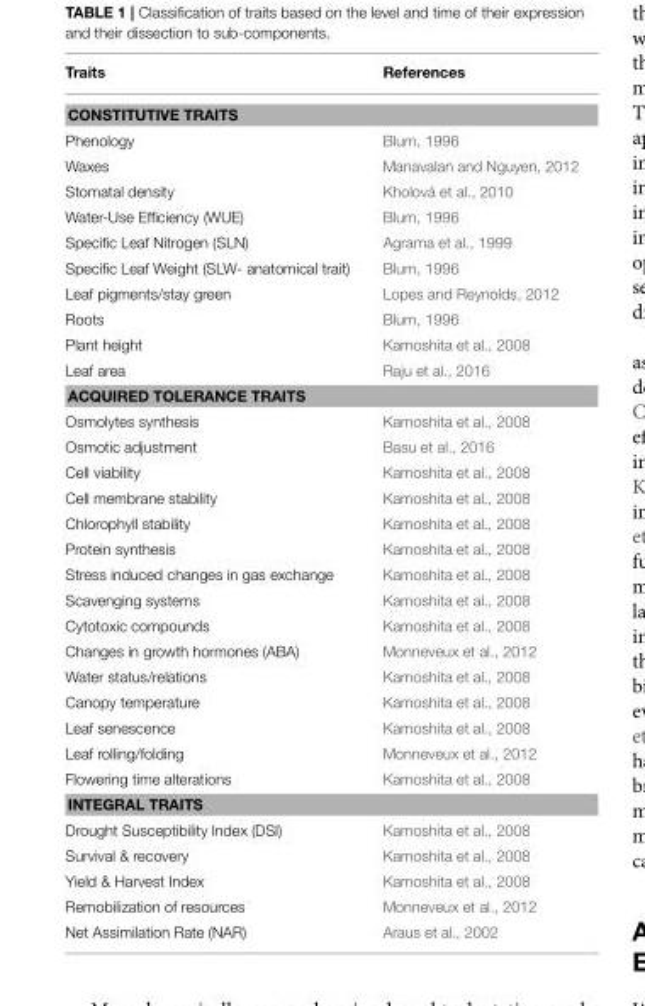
<table><thead><tr><td>Traits</td><td>References</td></tr></thead><tbody><tr><td colspan="2">CONSTITUTIVE TRAITS</td></tr><tr><td>Phenology</td><td>Blum, 1996</td></tr><tr><td>Waxes</td><td>Manavalan and Nguyen, 2012</td></tr><tr><td>Stomatal density</td><td>Kholová et al., 2010</td></tr><tr><td>Water-Use Efficiency (WUE)</td><td>Blum, 1996</td></tr><tr><td>Specific Leaf Nitrogen (SLN)</td><td>Agrama et al., 1999</td></tr><tr><td>Specific Leaf Weight (SLW- anatomical trait)</td><td>Blum, 1996</td></tr><tr><td>Leaf pigments/stay green</td><td>Lopes and Reynolds, 2012</td></tr><tr><td>Roots</td><td>Blum, 1996</td></tr><tr><td>Plant height</td><td>Kamoshita et al., 2008</td></tr><tr><td>Leaf area</td><td>Raju et al., 2016</td></tr><tr><td colspan="2">ACQUIRED TOLERANCE TRAITS</td></tr><tr><td>Osmolytes synthesis</td><td>Kamoshita et al., 2008</td></tr><tr><td>Osmotic adjustment</td><td>Basu et al., 2016</td></tr><tr><td>Cell viability</td><td>Kamoshita et al., 2008</td></tr><tr><td>Cell membrane stability</td><td>Kamoshita et al., 2008</td></tr><tr><td>Chlorophyll stability</td><td>Kamoshita et al., 2008</td></tr><tr><td>Protein synthesis</td><td>Kamoshita et al., 2008</td></tr><tr><td>Stress induced changes in gas exchange</td><td>Kamoshita et al., 2008</td></tr><tr><td>Scavenging systems</td><td>Kamoshita et al., 2008</td></tr><tr><td>Cytotoxic compounds</td><td>Kamoshita et al., 2008</td></tr><tr><td>Changes in growth hormones (ABA)</td><td>Monneveux et al., 2012</td></tr><tr><td>Water status/relations</td><td>Kamoshita et al., 2008</td></tr><tr><td>Canopy temperature</td><td>Kamoshita et al., 2008</td></tr><tr><td>Leaf senescence</td><td>Kamoshita et al., 2008</td></tr><tr><td>Leaf rolling/folding</td><td>Monneveux et al., 2012</td></tr><tr><td>Flowering time alterations</td><td>Kamoshita et al., 2008</td></tr><tr><td colspan="2">INTEGRAL TRAITS</td></tr><tr><td>Drought Susceptibility Index (DSI)</td><td>Kamoshita et al., 2008</td></tr><tr><td>Survival &amp; recovery</td><td>Kamoshita et al., 2008</td></tr><tr><td>Yield &amp; Harvest Index</td><td>Kamoshita et al., 2008</td></tr><tr><td>Remobilization of resources</td><td>Monneveux et al., 2012</td></tr><tr><td>Net Assimilation Rate (NAR)</td><td>Araus et al., 2002</td></tr></tbody></table>